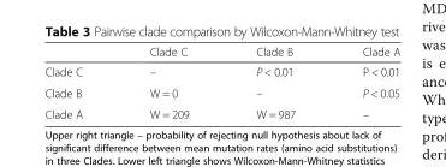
<table><thead><tr><td></td><td>Clade C</td><td>Clade B</td><td>Clade A</td></tr></thead><tbody><tr><td>Clade C</td><td>–</td><td>P &lt; 0.01</td><td>P &lt; 0.01</td></tr><tr><td>Clade B</td><td>W = 0</td><td>–</td><td>P &lt; 0.05</td></tr><tr><td>Clade A</td><td>W = 209</td><td>W = 987</td><td>–</td></tr></tbody></table>